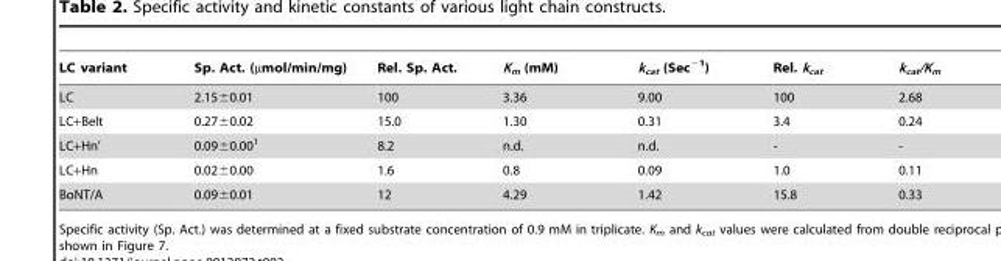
<table><thead><tr><td>LC variant</td><td>Sp. Act. (µmol/min/mg)</td><td>Rel. Sp. Act.</td><td>K<sub>m</sub> (mM)</td><td>k<sub>cat</sub> (Sec<sup>−1</sup>)</td><td>Rel. k<sub>cat</sub></td><td>k<sub>cat</sub>/K<sub>m</sub></td></tr></thead><tbody><tr><td>LC</td><td>2.15±0.01</td><td>100</td><td>3.36</td><td>9.00</td><td>100</td><td>2.68</td></tr><tr><td>LC+Belt</td><td>0.27±0.02</td><td>15.0</td><td>1.30</td><td>0.31</td><td>3.4</td><td>0.24</td></tr><tr><td>LC+Hn’</td><td>0.09±0.00<sup>1</sup></td><td>8.2</td><td>n.d.</td><td>n.d.</td><td>-</td><td>-</td></tr><tr><td>LC+Hn</td><td>0.02±0.00</td><td>1.6</td><td>0.8</td><td>0.09</td><td>1.0</td><td>0.11</td></tr><tr><td>BoNT/A</td><td>0.09±0.01</td><td>12</td><td>4.29</td><td>1.42</td><td>15.8</td><td>0.33</td></tr></tbody></table>